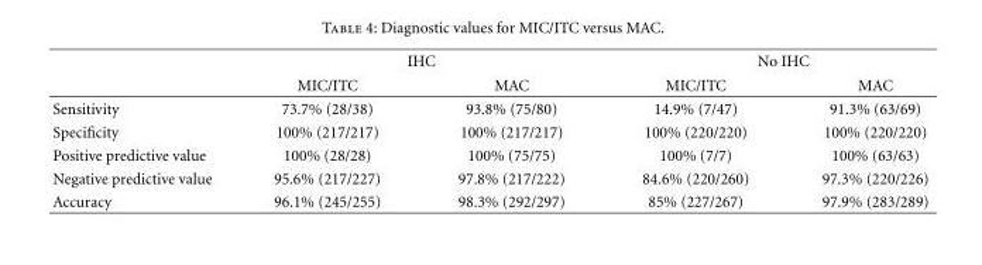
<table><thead><tr><td rowspan="2"></td><td colspan="2">IHC</td><td colspan="2">No IHC</td></tr><tr><td>MIC/ITC</td><td>MAC</td><td>MIC/ITC</td><td>MAC</td></tr></thead><tbody><tr><td>Sensitivity</td><td>73.7% (28/38)</td><td>93.8% (75/80)</td><td>14.9% (7/47)</td><td>91.3% (63/69)</td></tr><tr><td>Specificity</td><td>100% (217/217)</td><td>100% (217/217)</td><td>100% (220/220)</td><td>100% (220/220)</td></tr><tr><td>Positive predictive value</td><td>100% (28/28)</td><td>100% (75/75)</td><td>100% (7/7)</td><td>100% (63/63)</td></tr><tr><td>Negative predictive value</td><td>95.6% (217/227)</td><td>97.8% (217/222)</td><td>84.6% (220/260)</td><td>97.3% (220/226)</td></tr><tr><td>Accuracy</td><td>96.1% (245/255)</td><td>98.3% (292/297)</td><td>85% (227/267)</td><td>97.9% (283/289)</td></tr></tbody></table>